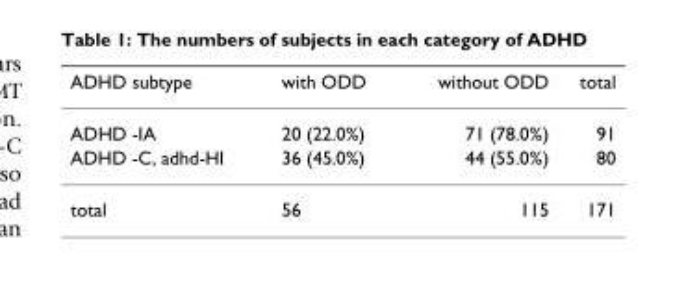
<table><thead><tr><td>ADHD subtype</td><td>with ODD</td><td>without ODD</td><td>total</td></tr></thead><tbody><tr><td>ADHD -IA</td><td>20 (22.0%)</td><td>71 (78.0%)</td><td>91</td></tr><tr><td>ADHD -C, adhd-HI</td><td>36 (45.0%)</td><td>44 (55.0%)</td><td>80</td></tr><tr><td>total</td><td>56</td><td>115</td><td>171</td></tr></tbody></table>